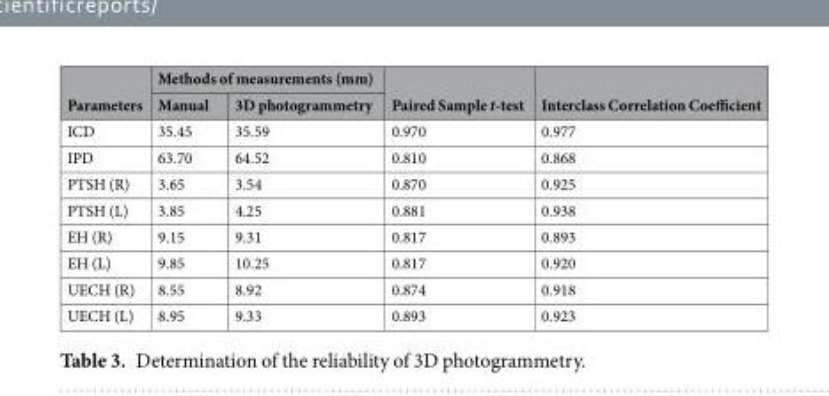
<table><thead><tr><td rowspan="2">Parameters</td><td colspan="2">Methods of measurements (mm)</td><td rowspan="2">Paired Sample t-test</td><td rowspan="2">Interclass Correlation Coefficient</td></tr><tr><td>Manual</td><td>3D photogrammetry</td></tr></thead><tbody><tr><td>ICD</td><td>35.45</td><td>35.59</td><td>0.970</td><td>0.977</td></tr><tr><td>IPD</td><td>63.70</td><td>64.52</td><td>0.810</td><td>0.868</td></tr><tr><td>PTSH (R)</td><td>3.65</td><td>3.54</td><td>0.870</td><td>0.925</td></tr><tr><td>PTSH (L)</td><td>3.85</td><td>4.25</td><td>0.881</td><td>0.938</td></tr><tr><td>EH (R)</td><td>9.15</td><td>9.31</td><td>0.817</td><td>0.893</td></tr><tr><td>EH (L)</td><td>9.85</td><td>10.25</td><td>0.817</td><td>0.920</td></tr><tr><td>UECH (R)</td><td>8.55</td><td>8.92</td><td>0.874</td><td>0.918</td></tr><tr><td>UECH (L)</td><td>8.95</td><td>9.33</td><td>0.893</td><td>0.923</td></tr></tbody></table>